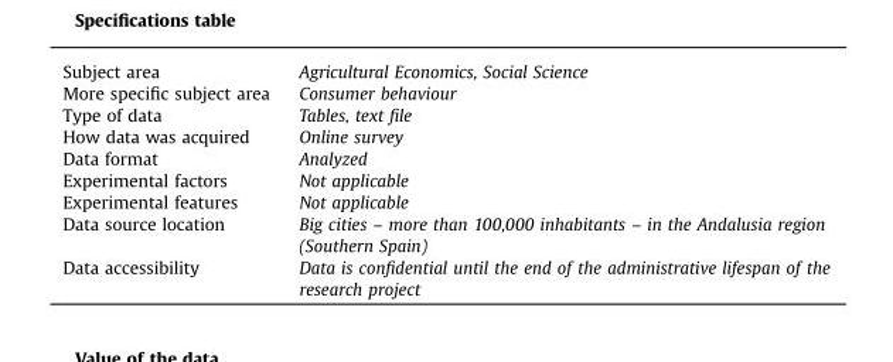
<table><tbody><tr><td>Subject area</td><td>Agricultural Economics, Social Science</td></tr><tr><td>More specific subject area</td><td>Consumer behaviour</td></tr><tr><td>Type of data</td><td>Tables, text file</td></tr><tr><td>How data was acquired</td><td>Online survey</td></tr><tr><td>Data format</td><td>Analyzed</td></tr><tr><td>Experimental factors</td><td>Not applicable</td></tr><tr><td>Experimental features</td><td>Not applicable</td></tr><tr><td>Data source location</td><td>Big cities – more than 100,000 inhabitants – in the Andalusia region (Southern Spain)</td></tr><tr><td>Data accessibility</td><td>Data is confidential until the end of the administrative lifespan of the research project</td></tr></tbody></table>